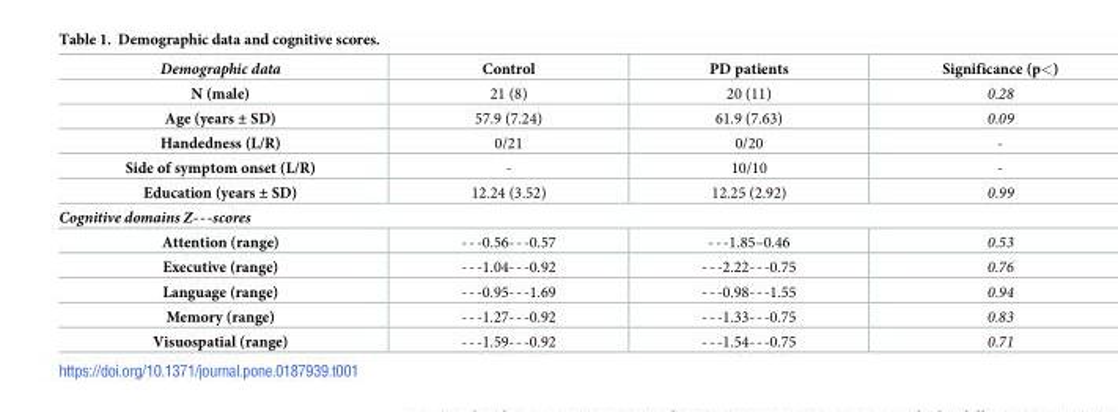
<table><thead><tr><td>Demographic data</td><td>Control</td><td>PD patients</td><td>Significance (p&lt;)</td></tr></thead><tbody><tr><td>N (male)</td><td>21 (8)</td><td>20 (11)</td><td>0.28</td></tr><tr><td>Age (years ± SD)</td><td>57.9 (7.24)</td><td>61.9 (7.63)</td><td>0.09</td></tr><tr><td>Handedness (L/R)</td><td>0/21</td><td>0/20</td><td>-</td></tr><tr><td>Side of symptom onset (L/R)</td><td>-</td><td>10/10</td><td>-</td></tr><tr><td>Education (years ± SD)</td><td>12.24 (3.52)</td><td>12.25 (2.92)</td><td>0.99</td></tr><tr><td colspan="4">Cognitive domains Z---scores</td></tr><tr><td>Attention (range)</td><td>---0.56---0.57</td><td>---1.85–0.46</td><td>0.53</td></tr><tr><td>Executive (range)</td><td>---1.04---0.92</td><td>---2.22---0.75</td><td>0.76</td></tr><tr><td>Language (range)</td><td>---0.95---1.69</td><td>---0.98---1.55</td><td>0.94</td></tr><tr><td>Memory (range)</td><td>---1.27---0.92</td><td>---1.33---0.75</td><td>0.83</td></tr><tr><td>Visuospatial (range)</td><td>---1.59---0.92</td><td>---1.54---0.75</td><td>0.71</td></tr></tbody></table>